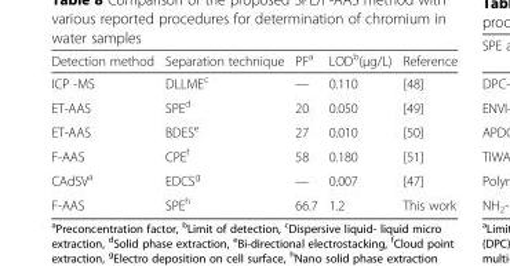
<table><thead><tr><td>Detection method</td><td>Separation technique</td><td>PF<sup>a</sup></td><td>LOD<sup>b</sup>(μg/L)</td><td>Reference</td></tr></thead><tbody><tr><td>ICP -MS</td><td>DLLME<sup>c</sup></td><td>—</td><td>0.110</td><td>[48]</td></tr><tr><td>ET-AAS</td><td>SPE<sup>d</sup></td><td>20</td><td>0.050</td><td>[49]</td></tr><tr><td>ET-AAS</td><td>BDES<sup>e</sup></td><td>27</td><td>0.010</td><td>[50]</td></tr><tr><td>F-AAS</td><td>CPE<sup>f</sup></td><td>58</td><td>0.180</td><td>[51]</td></tr><tr><td>CAdSV<sup>a</sup></td><td>EDCS<sup>g</sup></td><td>—</td><td>0.007</td><td>[47]</td></tr><tr><td>F-AAS</td><td>SPE<sup>h</sup></td><td>66.7</td><td>1.2</td><td>This work</td></tr></tbody></table>